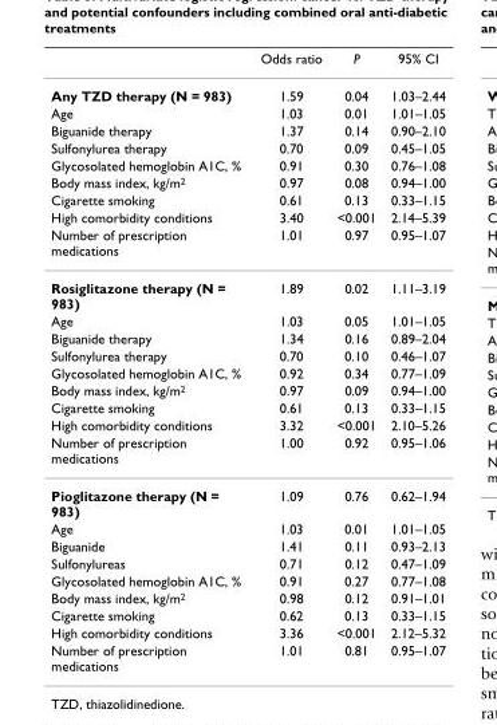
<table><thead><tr><td></td><td>Odds ratio</td><td>P</td><td>95% CI</td></tr></thead><tbody><tr><td>Any TZD therapy (N = 983)</td><td>1.59</td><td>0.04</td><td>1.03–2.44</td></tr><tr><td>Age</td><td>1.03</td><td>0.01</td><td>1.01–1.05</td></tr><tr><td>Biguanide therapy</td><td>1.37</td><td>0.14</td><td>0.90–2.10</td></tr><tr><td>Sulfonylurea therapy</td><td>0.70</td><td>0.09</td><td>0.45–1.05</td></tr><tr><td>Glycosolated hemoglobin A1C, %</td><td>0.91</td><td>0.30</td><td>0.76–1.08</td></tr><tr><td>Body mass index, kg/m<sup>2</sup></td><td>0.97</td><td>0.08</td><td>0.94–1.00</td></tr><tr><td>Cigarette smoking</td><td>0.61</td><td>0.13</td><td>0.33–1.15</td></tr><tr><td>High comorbidity conditions</td><td>3.40</td><td>&lt;0.001</td><td>2.14–5.39</td></tr><tr><td>Number of prescription medications</td><td>1.01</td><td>0.97</td><td>0.95–1.07</td></tr><tr><td>Rosiglitazone therapy (N = 983)</td><td>1.89</td><td>0.02</td><td>1.11–3.19</td></tr><tr><td>Age</td><td>1.03</td><td>0.05</td><td>1.01–1.05</td></tr><tr><td>Biguanide therapy</td><td>1.34</td><td>0.16</td><td>0.89–2.04</td></tr><tr><td>Sulfonylurea therapy</td><td>0.70</td><td>0.10</td><td>0.46–1.07</td></tr><tr><td>Glycosolated hemoglobin A1C, %</td><td>0.92</td><td>0.34</td><td>0.77–1.09</td></tr><tr><td>Body mass index, kg/m<sup>2</sup></td><td>0.97</td><td>0.09</td><td>0.94–1.00</td></tr><tr><td>Cigarette smoking</td><td>0.61</td><td>0.13</td><td>0.33–1.15</td></tr><tr><td>High comorbidity conditions</td><td>3.32</td><td>&lt;0.001</td><td>2.10–5.26</td></tr><tr><td>Number of prescription medications</td><td>1.00</td><td>0.92</td><td>0.95–1.06</td></tr><tr><td>Pioglitazone therapy (N = 983)</td><td>1.09</td><td>0.76</td><td>0.62–1.94</td></tr><tr><td>Age</td><td>1.03</td><td>0.01</td><td>1.01–1.05</td></tr><tr><td>Biguanide</td><td>1.41</td><td>0.11</td><td>0.93–2.13</td></tr><tr><td>Sulfonylureas</td><td>0.71</td><td>0.12</td><td>0.47–1.09</td></tr><tr><td>Glycosolated hemoglobin A1C, %</td><td>0.91</td><td>0.27</td><td>0.77–1.08</td></tr><tr><td>Body mass index, kg/m<sup>2</sup></td><td>0.98</td><td>0.12</td><td>0.91–1.01</td></tr><tr><td>Cigarette smoking</td><td>0.62</td><td>0.13</td><td>0.33–1.15</td></tr><tr><td>High comorbidity conditions</td><td>3.36</td><td>&lt;0.001</td><td>2.12–5.32</td></tr><tr><td>Number of prescription medications</td><td>1.01</td><td>0.81</td><td>0.95–1.07</td></tr></tbody></table>